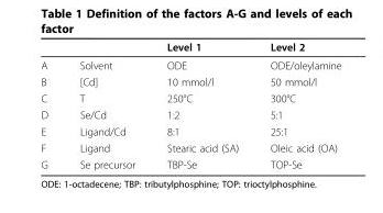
<table><thead><tr><td></td><td></td><td>Level 1</td><td>Level 2</td></tr></thead><tbody><tr><td>A</td><td>Solvent</td><td>ODE</td><td>ODE/oleylamine</td></tr><tr><td>B</td><td>[Cd]</td><td>10 mmol/l</td><td>50 mmol/l</td></tr><tr><td>C</td><td>T</td><td>250°C</td><td>300°C</td></tr><tr><td>D</td><td>Se/Cd</td><td>1:2</td><td>5:1</td></tr><tr><td>E</td><td>Ligand/Cd</td><td>8:1</td><td>25:1</td></tr><tr><td>F</td><td>Ligand</td><td>Stearic acid (SA)</td><td>Oleic acid (OA)</td></tr><tr><td>G</td><td>Se precursor</td><td>TBP-Se</td><td>TOP-Se</td></tr></tbody></table>